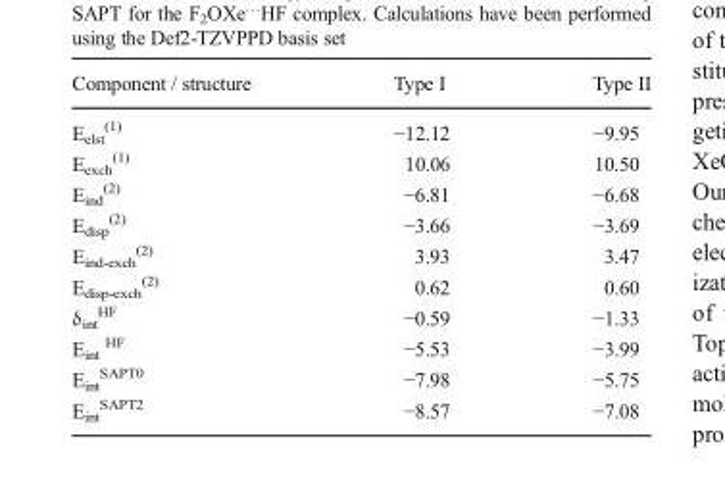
<table><thead><tr><td>Component / structure</td><td>Type I</td><td>Type II</td></tr></thead><tbody><tr><td>E<sub>elst</sub> <sup>(1)</sup></td><td>−12.12</td><td>−9.95</td></tr><tr><td>E<sub>exch</sub> <sup>(1)</sup></td><td>10.06</td><td>10.50</td></tr><tr><td>E<sub>ind</sub> <sup>(2)</sup></td><td>−6.81</td><td>−6.68</td></tr><tr><td>E<sub>disp</sub> <sup>(2)</sup></td><td>−3.66</td><td>−3.69</td></tr><tr><td>E<sub>ind-exch</sub> <sup>(2)</sup></td><td>3.93</td><td>3.47</td></tr><tr><td>E<sub>disp-exch</sub> <sup>(2)</sup></td><td>0.62</td><td>0.60</td></tr><tr><td>δ<sub>int</sub> <sup>HF</sup></td><td>−0.59</td><td>−1.33</td></tr><tr><td>E<sub>int</sub> <sup>HF</sup></td><td>−5.53</td><td>−3.99</td></tr><tr><td>E<sub>int</sub> <sup>SAPT0</sup></td><td>−7.98</td><td>−5.75</td></tr><tr><td>E<sub>int</sub> <sup>SAPT2</sup></td><td>−8.57</td><td>−7.08</td></tr></tbody></table>